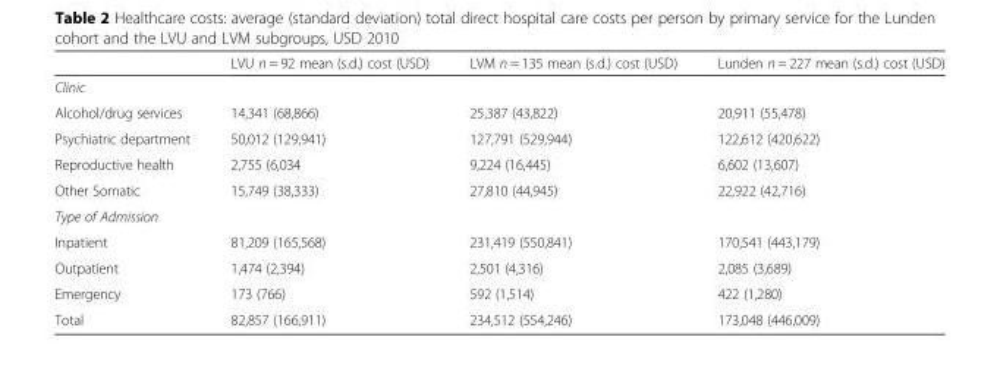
<table><thead><tr><td></td><td>LVU n = 92 mean (s.d.) cost (USD)</td><td>LVM n = 135 mean (s.d.) cost (USD)</td><td>Lunden n = 227 mean (s.d.) cost (USD)</td></tr></thead><tbody><tr><td colspan="4">Clinic</td></tr><tr><td>Alcohol/drug services</td><td>14,341 (68,866)</td><td>25,387 (43,822)</td><td>20,911 (55,478)</td></tr><tr><td>Psychiatric department</td><td>50,012 (129,941)</td><td>127,791 (529,944)</td><td>122,612 (420,622)</td></tr><tr><td>Reproductive health</td><td>2,755 (6,034</td><td>9,224 (16,445)</td><td>6,602 (13,607)</td></tr><tr><td>Other Somatic</td><td>15,749 (38,333)</td><td>27,810 (44,945)</td><td>22,922 (42,716)</td></tr><tr><td colspan="4">Type of Admission</td></tr><tr><td>Inpatient</td><td>81,209 (165,568)</td><td>231,419 (550,841)</td><td>170,541 (443,179)</td></tr><tr><td>Outpatient</td><td>1,474 (2,394)</td><td>2,501 (4,316)</td><td>2,085 (3,689)</td></tr><tr><td>Emergency</td><td>173 (766)</td><td>592 (1,514)</td><td>422 (1,280)</td></tr><tr><td>Total</td><td>82,857 (166,911)</td><td>234,512 (554,246)</td><td>173,048 (446,009)</td></tr></tbody></table>